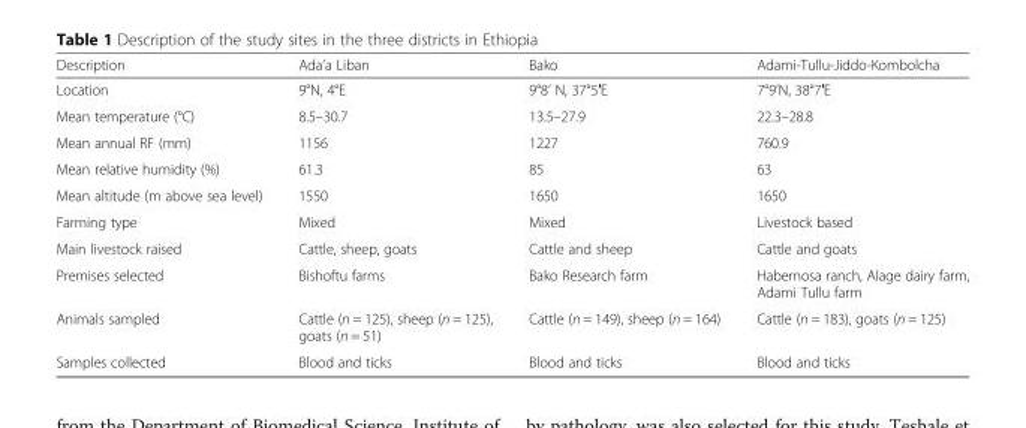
<table><thead><tr><td>Description</td><td>Ada’a Liban</td><td>Bako</td><td>Adami-Tullu-Jiddo-Kombolcha</td></tr></thead><tbody><tr><td>Location</td><td>9°N, 4°E</td><td>9°8’ N, 37°5′E</td><td>7°9’N, 38°7′E</td></tr><tr><td>Mean temperature (°C)</td><td>8.5–30.7</td><td>13.5–27.9</td><td>22.3–28.8</td></tr><tr><td>Mean annual RF (mm)</td><td>1156</td><td>1227</td><td>760.9</td></tr><tr><td>Mean relative humidity (%)</td><td>61.3</td><td>85</td><td>63</td></tr><tr><td>Mean altitude (m above sea level)</td><td>1550</td><td>1650</td><td>1650</td></tr><tr><td>Farming type</td><td>Mixed</td><td>Mixed</td><td>Livestock based</td></tr><tr><td>Main livestock raised</td><td>Cattle, sheep, goats</td><td>Cattle and sheep</td><td>Cattle and goats</td></tr><tr><td>Premises selected</td><td>Bishoftu farms</td><td>Bako Research farm</td><td>Habernosa ranch, Alage dairy farm, Adami Tullu farm</td></tr><tr><td>Animals sampled</td><td>Cattle (n = 125), sheep (n = 125), goats (n = 51)</td><td>Cattle (n = 149), sheep (n = 164)</td><td>Cattle (n = 183), goats (n = 125)</td></tr><tr><td>Samples collected</td><td>Blood and ticks</td><td>Blood and ticks</td><td>Blood and ticks</td></tr></tbody></table>